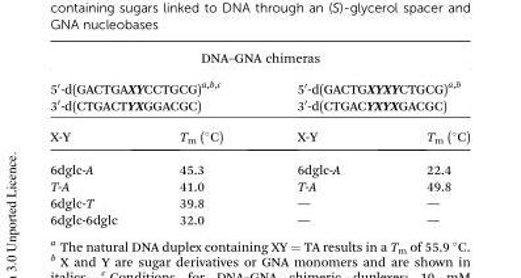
<table><thead><tr><td colspan="4">DNA–GNA chimeras</td></tr><tr><td colspan="2">5′-d(GACTGAXYCCTGCG)<sup>a,b,c</sup> 3′-d(CTGACTYXGGACGC)</td><td colspan="2">5′-d(GACTGXYXYCTGCG)<sup>a,b</sup> 3′-d(CTGACYXYXGACGC)</td></tr><tr><td>X-Y</td><td>T<sub>m</sub> (°C)</td><td>X-Y</td><td>T<sub>m</sub> (°C)</td></tr></thead><tbody><tr><td>6dglc-A</td><td>45.3</td><td>6dglc-A</td><td>22.4</td></tr><tr><td>T-A</td><td>41.0</td><td>T-A</td><td>49.8</td></tr><tr><td>6dglc-T</td><td>39.8</td><td>—</td><td>—</td></tr><tr><td>6dglc-6dglc</td><td>32.0</td><td>—</td><td>—</td></tr></tbody></table>